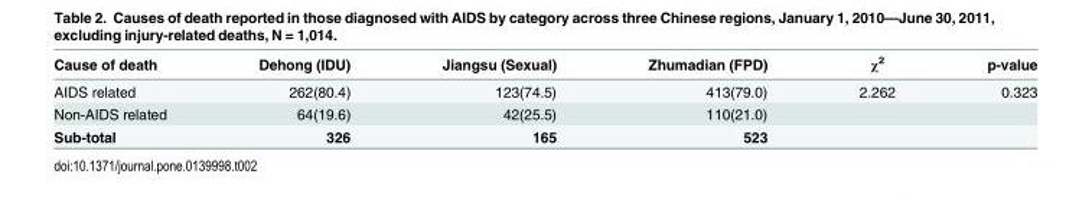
<table><thead><tr><td>Cause of death</td><td>Dehong (IDU)</td><td>Jiangsu (Sexual)</td><td>Zhumadian (FPD)</td><td>χ<sup>2</sup></td><td>p-value</td></tr></thead><tbody><tr><td>AIDS related</td><td>262(80.4)</td><td>123(74.5)</td><td>413(79.0)</td><td>2.262</td><td>0.323</td></tr><tr><td>Non-AIDS related</td><td>64(19.6)</td><td>42(25.5)</td><td>110(21.0)</td><td></td><td></td></tr><tr><td>Sub-total</td><td>326</td><td>165</td><td>523</td><td></td><td></td></tr></tbody></table>